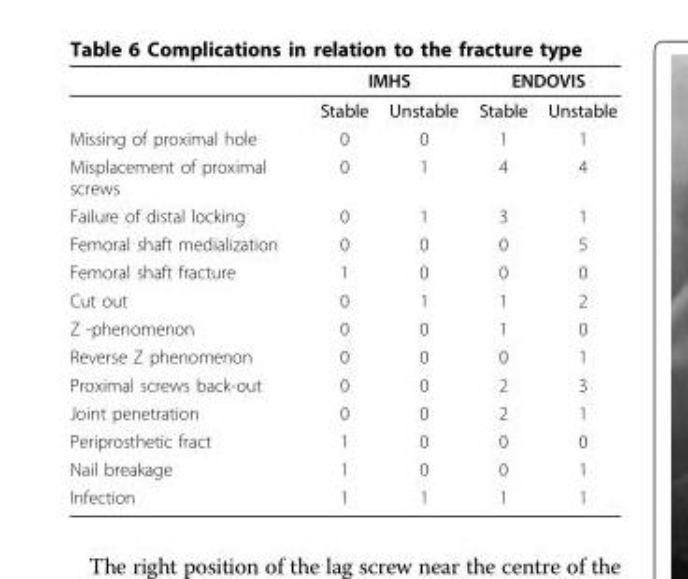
<table><thead><tr><td rowspan="2"></td><td colspan="2">IMHS</td><td colspan="2">ENDOVIS</td></tr><tr><td>Stable</td><td>Unstable</td><td>Stable</td><td>Unstable</td></tr></thead><tbody><tr><td>Missing of proximal hole</td><td>0</td><td>0</td><td>1</td><td>1</td></tr><tr><td>Misplacement of proximal screws</td><td>0</td><td>1</td><td>4</td><td>4</td></tr><tr><td>Failure of distal locking</td><td>0</td><td>1</td><td>3</td><td>1</td></tr><tr><td>Femoral shaft medialization</td><td>0</td><td>0</td><td>0</td><td>5</td></tr><tr><td>Femoral shaft fracture</td><td>1</td><td>0</td><td>0</td><td>0</td></tr><tr><td>Cut out</td><td>0</td><td>1</td><td>1</td><td>2</td></tr><tr><td>Z -phenomenon</td><td>0</td><td>0</td><td>1</td><td>0</td></tr><tr><td>Reverse Z phenomenon</td><td>0</td><td>0</td><td>0</td><td>1</td></tr><tr><td>Proximal screws back-out</td><td>0</td><td>0</td><td>2</td><td>3</td></tr><tr><td>Joint penetration</td><td>0</td><td>0</td><td>2</td><td>1</td></tr><tr><td>Periprosthetic fract</td><td>1</td><td>0</td><td>0</td><td>0</td></tr><tr><td>Nail breakage</td><td>1</td><td>0</td><td>0</td><td>1</td></tr><tr><td>Infection</td><td>1</td><td>1</td><td>1</td><td>1</td></tr></tbody></table>